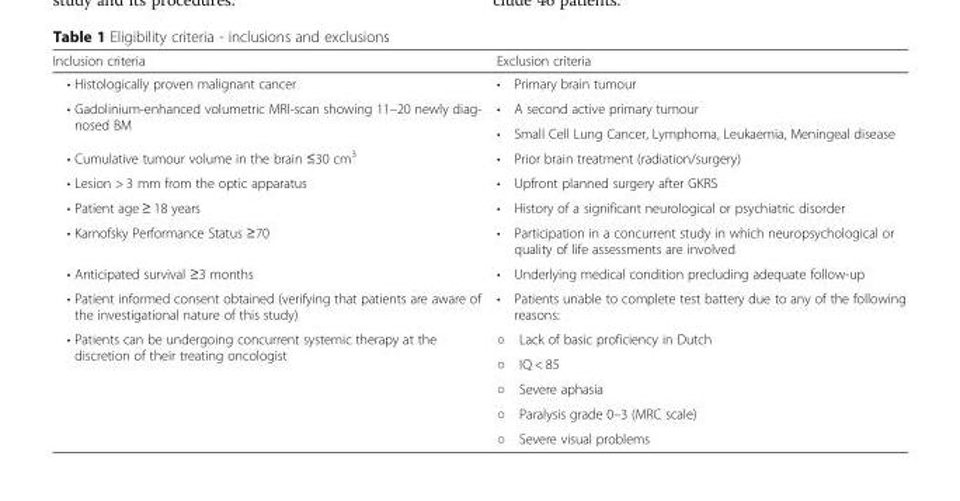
<table><thead><tr><td>Inclusion criteria</td><td>Exclusion criteria</td></tr></thead><tbody><tr><td>• Histologically proven malignant cancer</td><td>• Primary brain tumour</td></tr><tr><td rowspan="2">• Gadolinium-enhanced volumetric MRI-scan showing 11–20 newly diag- nosed BM</td><td>• A second active primary tumour</td></tr><tr><td>• Small Cell Lung Cancer, Lymphoma, Leukaemia, Meningeal disease</td></tr><tr><td>• Cumulative tumour volume in the brain ≤30 cm<sup>3</sup></td><td>• Prior brain treatment (radiation/surgery)</td></tr><tr><td>• Lesion &gt; 3 mm from the optic apparatus</td><td>• Upfront planned surgery after GKRS</td></tr><tr><td>• Patient age ≥ 18 years</td><td>• History of a significant neurological or psychiatric disorder</td></tr><tr><td>• Karnofsky Performance Status ≥70</td><td>• Participation in a concurrent study in which neuropsychological or quality of life assessments are involved</td></tr><tr><td>• Anticipated survival ≥3 months</td><td>• Underlying medical condition precluding adequate follow-up</td></tr><tr><td>• Patient informed consent obtained (verifying that patients are aware of the investigational nature of this study)</td><td>• Patients unable to complete test battery due to any of the following reasons:</td></tr><tr><td rowspan="5">• Patients can be undergoing concurrent systemic therapy at the discretion of their treating oncologist</td><td>○ Lack of basic proficiency in Dutch</td></tr><tr><td>○ IQ &lt; 85</td></tr><tr><td>○ Severe aphasia</td></tr><tr><td>○ Paralysis grade 0–3 (MRC scale)</td></tr><tr><td>○ Severe visual problems</td></tr></tbody></table>